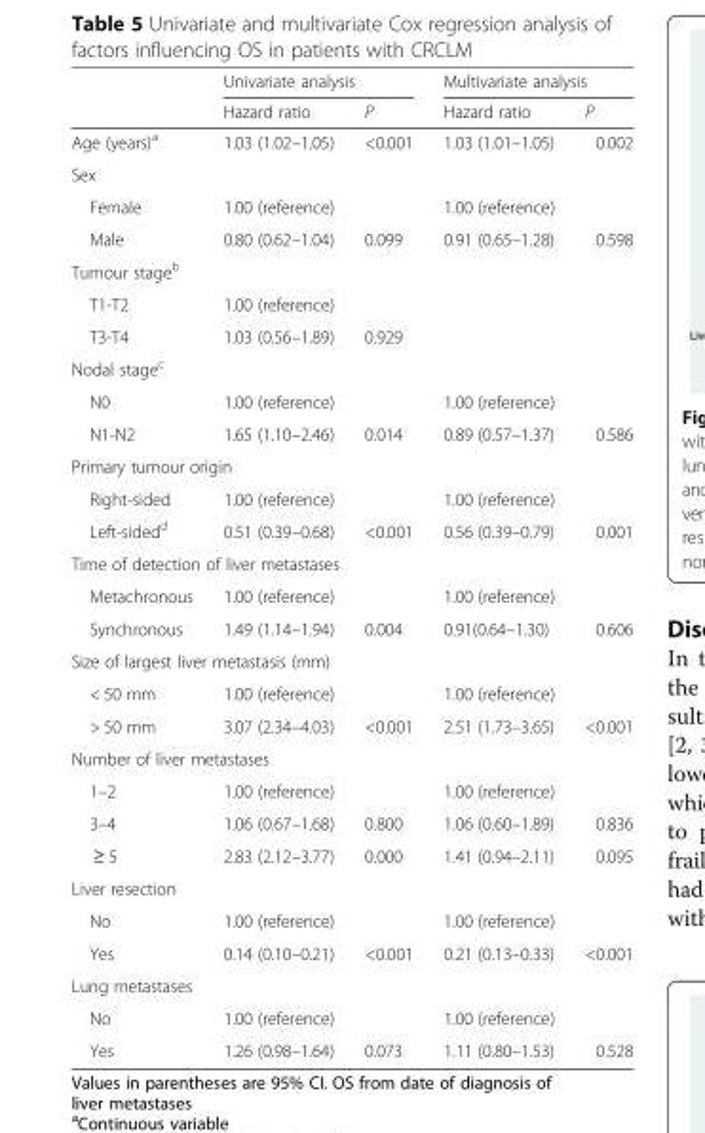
<table><thead><tr><td rowspan="2"></td><td colspan="2">Univariate analysis</td><td colspan="2">Multivariate analysis</td></tr><tr><td>Hazard ratio</td><td>P</td><td>Hazard ratio</td><td>P</td></tr></thead><tbody><tr><td>Age (years)<sup>a</sup></td><td>1.03 (1.02–1.05)</td><td>&lt;0.001</td><td>1.03 (1.01–1.05)</td><td>0.002</td></tr><tr><td colspan="5">Sex</td></tr><tr><td>Female</td><td>1.00 (reference)</td><td></td><td>1.00 (reference)</td><td></td></tr><tr><td>Male</td><td>0.80 (0.62–1.04)</td><td>0.099</td><td>0.91 (0.65–1.28)</td><td>0.598</td></tr><tr><td colspan="5">Tumour stage<sup>b</sup></td></tr><tr><td>T1-T2</td><td>1.00 (reference)</td><td></td><td rowspan="2"></td><td rowspan="2"></td></tr><tr><td>T3-T4</td><td>1.03 (0.56–1.89)</td><td>0.929</td></tr><tr><td colspan="5">Nodal stage<sup>c</sup></td></tr><tr><td>N0</td><td>1.00 (reference)</td><td></td><td>1.00 (reference)</td><td></td></tr><tr><td>N1-N2</td><td>1.65 (1.10–2.46)</td><td>0.014</td><td>0.89 (0.57–1.37)</td><td>0.586</td></tr><tr><td colspan="5">Primary tumour origin</td></tr><tr><td>Right-sided</td><td>1.00 (reference)</td><td></td><td>1.00 (reference)</td><td></td></tr><tr><td>Left-sided<sup>d</sup></td><td>0.51 (0.39–0.68)</td><td>&lt;0.001</td><td>0.56 (0.39–0.79)</td><td>0.001</td></tr><tr><td colspan="5">Time of detection of liver metastases</td></tr><tr><td>Metachronous</td><td>1.00 (reference)</td><td></td><td>1.00 (reference)</td><td></td></tr><tr><td>Synchronous</td><td>1.49 (1.14–1.94)</td><td>0.004</td><td>0.91(0.64–1.30)</td><td>0.606</td></tr><tr><td colspan="5">Size of largest liver metastasis (mm)</td></tr><tr><td>&lt; 50 mm</td><td>1.00 (reference)</td><td></td><td>1.00 (reference)</td><td></td></tr><tr><td>&gt; 50 mm</td><td>3.07 (2.34–4.03)</td><td>&lt;0.001</td><td>2.51 (1.73–3.65)</td><td>&lt;0.001</td></tr><tr><td colspan="5">Number of liver metastases</td></tr><tr><td>1–2</td><td>1.00 (reference)</td><td></td><td>1.00 (reference)</td><td></td></tr><tr><td>3–4</td><td>1.06 (0.67–1.68)</td><td>0.800</td><td>1.06 (0.60–1.89)</td><td>0.836</td></tr><tr><td>≥ 5</td><td>2.83 (2.12–3.77)</td><td>0.000</td><td>1.41 (0.94–2.11)</td><td>0.095</td></tr><tr><td colspan="5">Liver resection</td></tr><tr><td>No</td><td>1.00 (reference)</td><td></td><td>1.00 (reference)</td><td></td></tr><tr><td>Yes</td><td>0.14 (0.10–0.21)</td><td>&lt;0.001</td><td>0.21 (0.13–0.33)</td><td>&lt;0.001</td></tr><tr><td colspan="5">Lung metastases</td></tr><tr><td>No</td><td>1.00 (reference)</td><td></td><td>1.00 (reference)</td><td></td></tr><tr><td>Yes</td><td>1.26 (0.98–1.64)</td><td>0.073</td><td>1.11 (0.80–1.53)</td><td>0.528</td></tr></tbody></table>